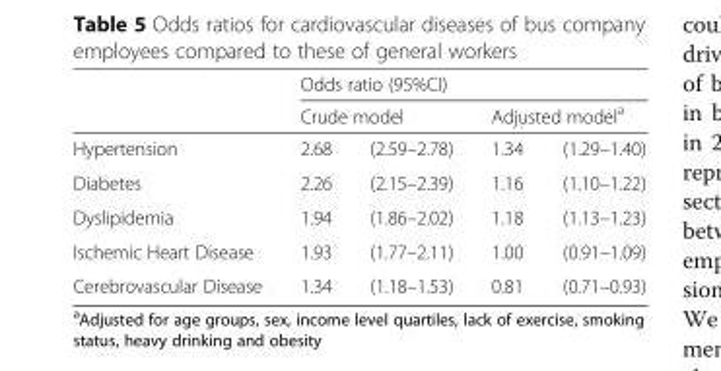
<table><thead><tr><td rowspan="3">Hypertension</td><td colspan="4">Odds ratio (95%CI)</td></tr><tr><td colspan="2">Crude model</td><td colspan="2">Adjusted model<sup>a</sup></td></tr><tr><td>2.68</td><td>(2.59–2.78)</td><td>1.34</td><td>(1.29–1.40)</td></tr></thead><tbody><tr><td>Diabetes</td><td>2.26</td><td>(2.15–2.39)</td><td>1.16</td><td>(1.10–1.22)</td></tr><tr><td>Dyslipidemia</td><td>1.94</td><td>(1.86–2.02)</td><td>1.18</td><td>(1.13–1.23)</td></tr><tr><td>Ischemic Heart Disease</td><td>1.93</td><td>(1.77–2.11)</td><td>1.00</td><td>(0.91–1.09)</td></tr><tr><td>Cerebrovascular Disease</td><td>1.34</td><td>(1.18–1.53)</td><td>0.81</td><td>(0.71–0.93)</td></tr></tbody></table>